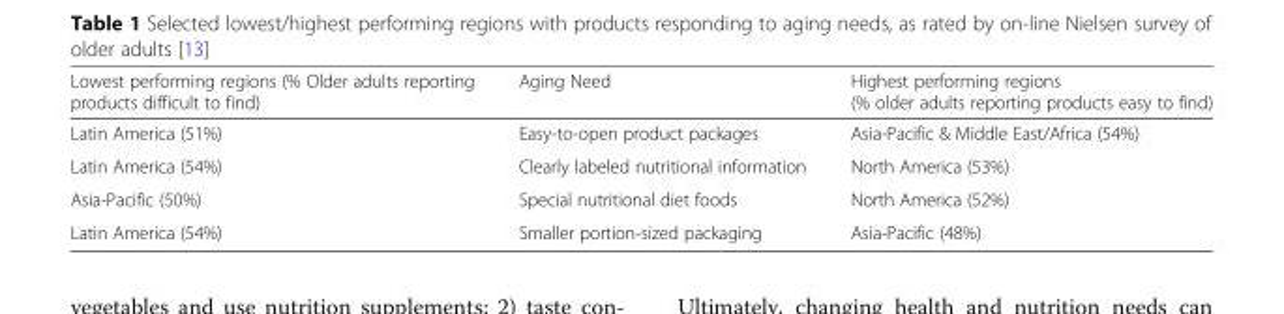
<table><thead><tr><td>Lowest performing regions (% Older adults reporting products difficult to find)</td><td>Aging Need</td><td>Highest performing regions (% older adults reporting products easy to find)</td></tr></thead><tbody><tr><td>Latin America (51%)</td><td>Easy-to-open product packages</td><td>Asia-Pacific &amp; Middle East/Africa (54%)</td></tr><tr><td>Latin America (54%)</td><td>Clearly labeled nutritional information</td><td>North America (53%)</td></tr><tr><td>Asia-Pacific (50%)</td><td>Special nutritional diet foods</td><td>North America (52%)</td></tr><tr><td>Latin America (54%)</td><td>Smaller portion-sized packaging</td><td>Asia-Pacific (48%)</td></tr></tbody></table>